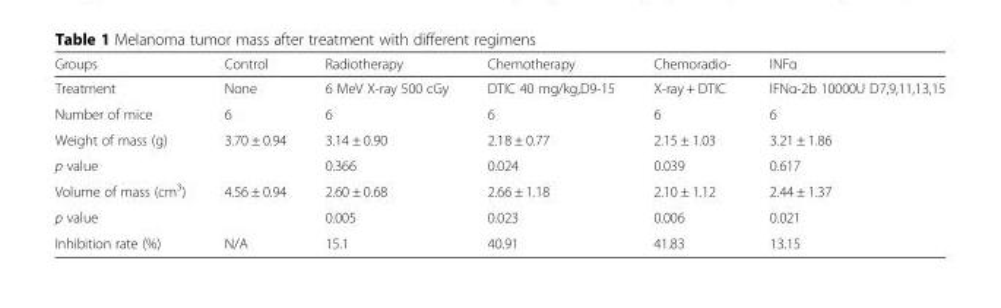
<table><thead><tr><td>Groups</td><td>Control</td><td>Radiotherapy</td><td>Chemotherapy</td><td>Chemoradio-</td><td>INFα</td></tr></thead><tbody><tr><td>Treatment</td><td>None</td><td>6 MeV X-ray 500 cGy</td><td>DTIC 40 mg/kg,D9-15</td><td>X-ray + DTIC</td><td>IFNα-2b 10000U D7,9,11,13,15</td></tr><tr><td>Number of mice</td><td>6</td><td>6</td><td>6</td><td>6</td><td>6</td></tr><tr><td>Weight of mass (g)</td><td>3.70 ± 0.94</td><td>3.14 ± 0.90</td><td>2.18 ± 0.77</td><td>2.15 ± 1.03</td><td>3.21 ± 1.86</td></tr><tr><td>p value</td><td></td><td>0.366</td><td>0.024</td><td>0.039</td><td>0.617</td></tr><tr><td>Volume of mass (cm<sup>3</sup>)</td><td>4.56 ± 0.94</td><td>2.60 ± 0.68</td><td>2.66 ± 1.18</td><td>2.10 ± 1.12</td><td>2.44 ± 1.37</td></tr><tr><td>p value</td><td></td><td>0.005</td><td>0.023</td><td>0.006</td><td>0.021</td></tr><tr><td>Inhibition rate (%)</td><td>N/A</td><td>15.1</td><td>40.91</td><td>41.83</td><td>13.15</td></tr></tbody></table>